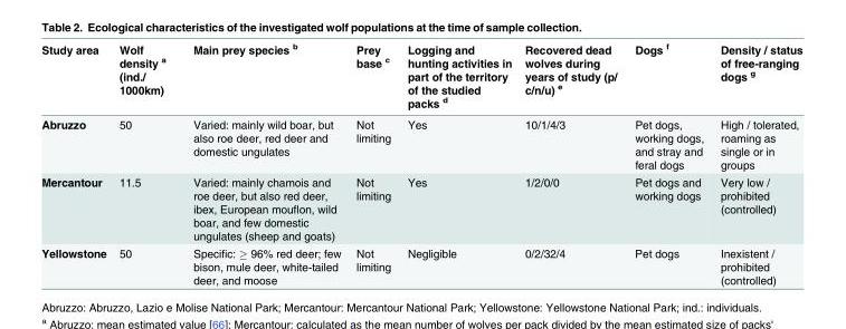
<table><thead><tr><td>Study area</td><td>Wolf density <sup>a</sup> (ind./ 1000km)</td><td>Main prey species <sup>b</sup></td><td>Prey base <sup>c</sup></td><td>Logging and hunting activities in part of the territory of the studied packs <sup>d</sup></td><td>Recovered dead wolves during years of study (p/ c/n/u) <sup>e</sup></td><td>Dogs <sup>f</sup></td><td>Density / status of free-ranging dogs <sup>g</sup></td></tr></thead><tbody><tr><td>Abruzzo</td><td>50</td><td>Varied: mainly wild boar, but also roe deer, red deer and domestic ungulates</td><td>Not limiting</td><td>Yes</td><td>10/1/4/3</td><td>Pet dogs, working dogs, and stray and feral dogs</td><td>High / tolerated, roaming as single or in groups</td></tr><tr><td>Mercantour</td><td>11.5</td><td>Varied: mainly chamois and roe deer, but also red deer, ibex, European mouflon, wild boar, and few domestic ungulates (sheep and goats)</td><td>Not limiting</td><td>Yes</td><td>1/2/0/0</td><td>Pet dogs and working dogs</td><td>Very low / prohibited (controlled)</td></tr><tr><td>Yellowstone</td><td>50</td><td>Specific: ≥ 96% red deer; few bison, mule deer, white-tailed deer, and moose</td><td>Not limiting</td><td>Negligible</td><td>0/2/32/4</td><td>Pet dogs</td><td>Inexistent / prohibited (controlled)</td></tr></tbody></table>